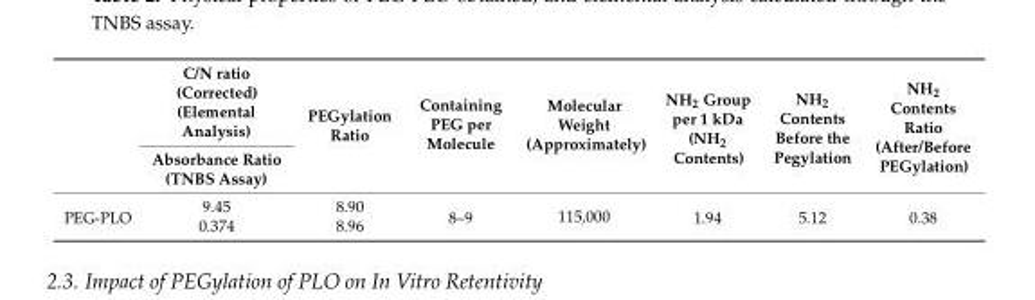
<table><thead><tr><td rowspan="2"></td><td rowspan="2">C/N ratio (Corrected) (Elemental Analysis) Absorbance Ratio (TNBS Assay)</td><td rowspan="2">PEGylation Ratio</td><td rowspan="2">Containing PEG per Molecule</td><td rowspan="2">Molecular Weight (Approximately)</td><td rowspan="2">NH<sub>2</sub> Group per 1 kDa (NH<sub>2</sub> Contents)</td><td rowspan="2">NH<sub>2</sub> Contents Before the Pegylation</td><td rowspan="2">NH<sub>2</sub> Contents Ratio (After/Before PEGylation)</td></tr><tr></tr></thead><tbody><tr><td rowspan="2">PEG-PLO</td><td>9.45</td><td>8.90</td><td rowspan="2">8–9</td><td rowspan="2">115,000</td><td rowspan="2">1.94</td><td rowspan="2">5.12</td><td rowspan="2">0.38</td></tr><tr><td>0.374</td><td>8.96</td></tr></tbody></table>